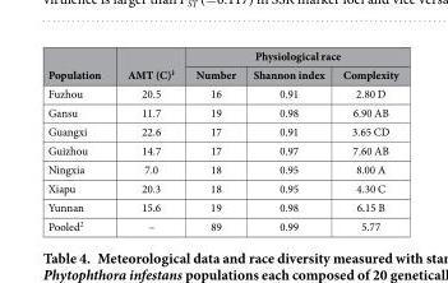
<table><thead><tr><td rowspan="2">Population</td><td rowspan="2">AMT (C)<sup>1</sup></td><td colspan="3">Physiological race</td></tr><tr><td>Number</td><td>Shannon index</td><td>Complexity</td></tr></thead><tbody><tr><td>Fuzhou</td><td>20.5</td><td>16</td><td>0.91</td><td>2.80 D</td></tr><tr><td>Gansu</td><td>11.7</td><td>19</td><td>0.98</td><td>6.90 AB</td></tr><tr><td>Guangxi</td><td>22.6</td><td>17</td><td>0.91</td><td>3.65 CD</td></tr><tr><td>Guizhou</td><td>14.7</td><td>17</td><td>0.97</td><td>7.60 AB</td></tr><tr><td>Ningxia</td><td>7.0</td><td>18</td><td>0.95</td><td>8.00 A</td></tr><tr><td>Xiapu</td><td>20.3</td><td>18</td><td>0.95</td><td>4.30 C</td></tr><tr><td>Yunnan</td><td>15.6</td><td>19</td><td>0.98</td><td>6.15 B</td></tr><tr><td>Pooled<sup>2</sup></td><td>–</td><td>89</td><td>0.99</td><td>5.77</td></tr></tbody></table>